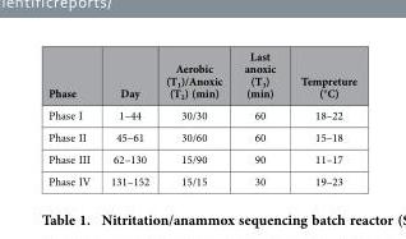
<table><thead><tr><td>Phase</td><td>Day</td><td>Aerobic (T<sub>1</sub>)/Anoxic (T<sub>2</sub>) (min)</td><td>Last anoxic (T<sub>3</sub>) (min)</td><td>Tempreture (°C)</td></tr></thead><tbody><tr><td>Phase I</td><td>1–44</td><td>30/30</td><td>60</td><td>18–22</td></tr><tr><td>Phase II</td><td>45–61</td><td>30/60</td><td>60</td><td>15–18</td></tr><tr><td>Phase III</td><td>62–130</td><td>15/90</td><td>90</td><td>11–17</td></tr><tr><td>Phase IV</td><td>131–152</td><td>15/15</td><td>30</td><td>19–23</td></tr></tbody></table>